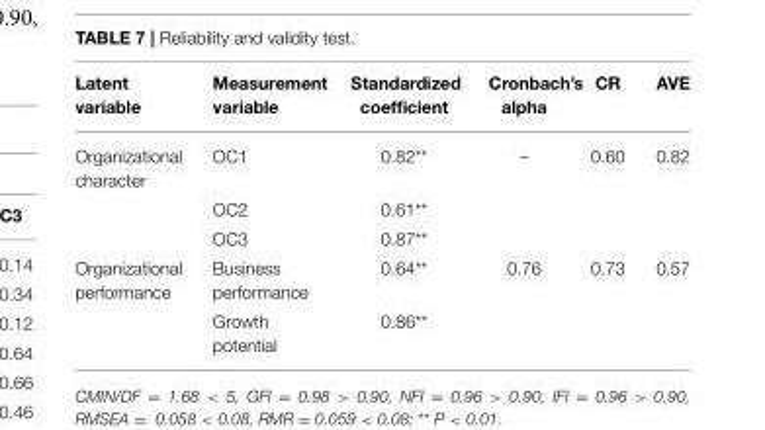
<table><thead><tr><td>Latent variable</td><td>Measurement variable</td><td>Standardized coefficient</td><td>Cronbach’s alpha</td><td>CR</td><td>AVE</td></tr></thead><tbody><tr><td rowspan="3">Organizational character</td><td>OC1</td><td>0.82**</td><td>–</td><td>0.60</td><td>0.82</td></tr><tr><td>OC2</td><td>0.61**</td><td></td><td></td><td></td></tr><tr><td>OC3</td><td>0.87**</td><td></td><td></td><td></td></tr><tr><td rowspan="2">Organizational performance</td><td>Business performance</td><td>0.64**</td><td>0.76</td><td>0.73</td><td>0.57</td></tr><tr><td>Growth potential</td><td>0.86**</td><td></td><td></td><td></td></tr></tbody></table>